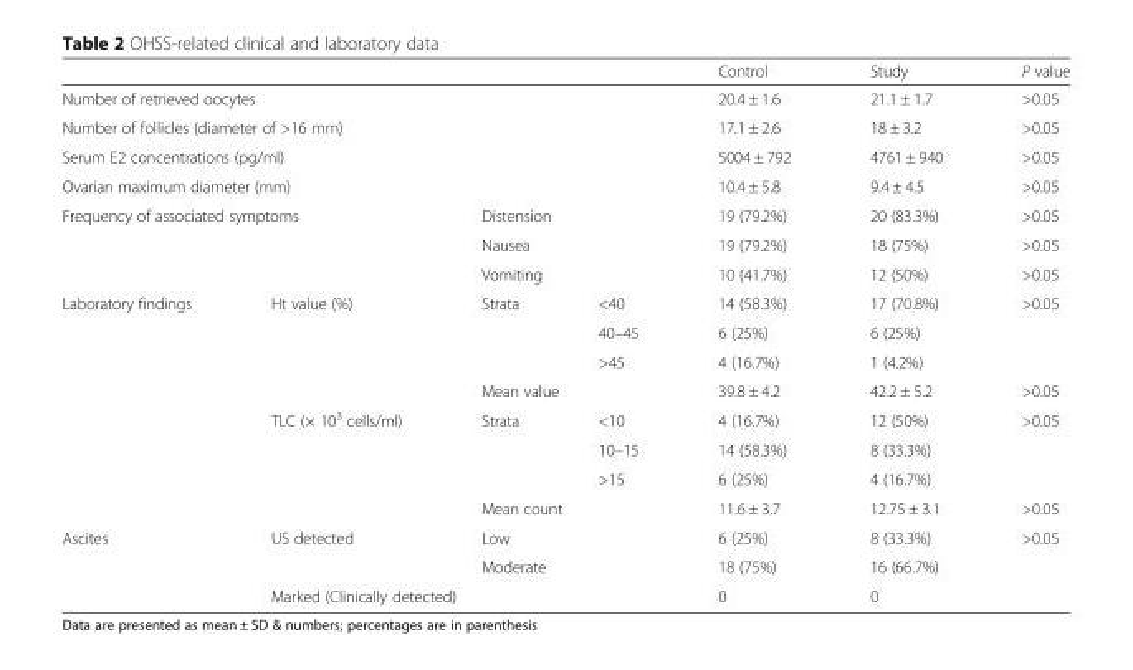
<table><thead><tr><td></td><td></td><td></td><td></td><td>Control</td><td>Study</td><td>P value</td></tr></thead><tbody><tr><td colspan="4">Number of retrieved oocytes</td><td>20.4 ± 1.6</td><td>21.1 ± 1.7</td><td>&gt;0.05</td></tr><tr><td colspan="4">Number of follicles (diameter of &gt;16 mm)</td><td>17.1 ± 2.6</td><td>18 ± 3.2</td><td>&gt;0.05</td></tr><tr><td colspan="4">Serum E2 concentrations (pg/ml)</td><td>5004 ± 792</td><td>4761 ± 940</td><td>&gt;0.05</td></tr><tr><td colspan="4">Ovarian maximum diameter (mm)</td><td>10.4 ± 5.8</td><td>9.4 ± 4.5</td><td>&gt;0.05</td></tr><tr><td rowspan="3" colspan="2">Frequency of associated symptoms</td><td colspan="2">Distension</td><td>19 (79.2%)</td><td>20 (83.3%)</td><td>&gt;0.05</td></tr><tr><td colspan="2">Nausea</td><td>19 (79.2%)</td><td>18 (75%)</td><td>&gt;0.05</td></tr><tr><td colspan="2">Vomiting</td><td>10 (41.7%)</td><td>12 (50%)</td><td>&gt;0.05</td></tr><tr><td rowspan="8">Laboratory findings</td><td rowspan="4">Ht value (%)</td><td rowspan="3">Strata</td><td>&lt;40</td><td>14 (58.3%)</td><td>17 (70.8%)</td><td rowspan="3">&gt;0.05</td></tr><tr><td>40–45</td><td>6 (25%)</td><td>6 (25%)</td></tr><tr><td>&gt;45</td><td>4 (16.7%)</td><td>1 (4.2%)</td></tr><tr><td colspan="2">Mean value</td><td>39.8 ± 4.2</td><td>42.2 ± 5.2</td><td>&gt;0.05</td></tr><tr><td rowspan="4">TLC (× 10<sup>3</sup> cells/ml)</td><td rowspan="3">Strata</td><td>&lt;10</td><td>4 (16.7%)</td><td>12 (50%)</td><td rowspan="3">&gt;0.05</td></tr><tr><td>10–15</td><td>14 (58.3%)</td><td>8 (33.3%)</td></tr><tr><td>&gt;15</td><td>6 (25%)</td><td>4 (16.7%)</td></tr><tr><td colspan="2">Mean count</td><td>11.6 ± 3.7</td><td>12.75 ± 3.1</td><td>&gt;0.05</td></tr><tr><td rowspan="3">Ascites</td><td rowspan="2">US detected</td><td colspan="2">Low</td><td>6 (25%)</td><td>8 (33.3%)</td><td rowspan="3">&gt;0.05</td></tr><tr><td colspan="2">Moderate</td><td>18 (75%)</td><td>16 (66.7%)</td></tr><tr><td colspan="3">Marked (Clinically detected)</td><td>0</td><td>0</td></tr></tbody></table>